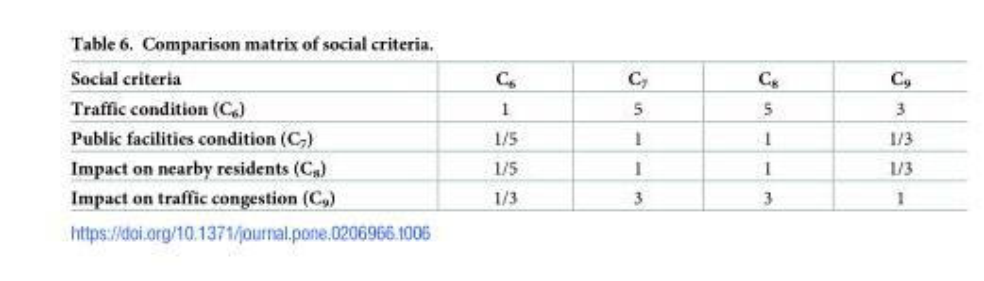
<table><thead><tr><td>Social criteria</td><td>C<sub>6</sub></td><td>C<sub>7</sub></td><td>C<sub>8</sub></td><td>C<sub>9</sub></td></tr></thead><tbody><tr><td>Traffic condition (C<sub>6</sub>)</td><td>1</td><td>5</td><td>5</td><td>3</td></tr><tr><td>Public facilities condition (C<sub>7</sub>)</td><td>1/5</td><td>1</td><td>1</td><td>1/3</td></tr><tr><td>Impact on nearby residents (C<sub>8</sub>)</td><td>1/5</td><td>1</td><td>1</td><td>1/3</td></tr><tr><td>Impact on traffic congestion (C<sub>9</sub>)</td><td>1/3</td><td>3</td><td>3</td><td>1</td></tr></tbody></table>